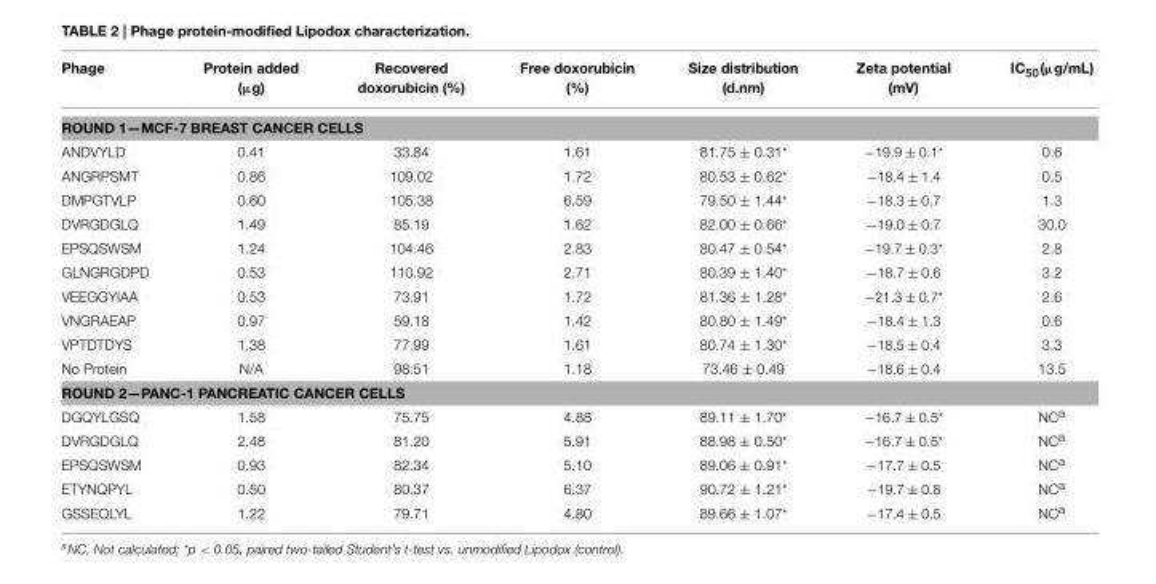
<table><thead><tr><td>Phage</td><td>Protein added (µg)</td><td>Recovered doxorubicin (%)</td><td>Free doxorubicin (%)</td><td>Size distribution (d.nm)</td><td>Zeta potential (mV)</td><td>IC<sub>50</sub>(µg/mL)</td></tr></thead><tbody><tr><td colspan="7">ROUND 1—MCF-7 BREAST CANCER CELLS</td></tr><tr><td>ANDVYLD</td><td>0.41</td><td>33.84</td><td>1.61</td><td>81.75 ± 0.31*</td><td>−19.9 ± 0.1*</td><td>0.6</td></tr><tr><td>ANGRPSMT</td><td>0.86</td><td>109.02</td><td>1.72</td><td>80.53 ± 0.62*</td><td>−18.4 ± 1.4</td><td>0.5</td></tr><tr><td>DMPGTVLP</td><td>0.60</td><td>105.38</td><td>6.59</td><td>79.50 ± 1.44*</td><td>−18.3 ± 0.7</td><td>1.3</td></tr><tr><td>DVRGDGLQ</td><td>1.49</td><td>85.19</td><td>1.62</td><td>82.00 ± 0.66*</td><td>−19.0 ± 0.7</td><td>30.0</td></tr><tr><td>EPSQSWSM</td><td>1.24</td><td>104.46</td><td>2.83</td><td>80.47 ± 0.54*</td><td>−19.7 ± 0.3*</td><td>2.8</td></tr><tr><td>GLNGRGDPD</td><td>0.53</td><td>110.92</td><td>2.71</td><td>80.39 ± 1.40*</td><td>−18.7 ± 0.6</td><td>3.2</td></tr><tr><td>VEEGGYIAA</td><td>0.53</td><td>73.91</td><td>1.72</td><td>81.36 ± 1.28*</td><td>−21.3 ± 0.7*</td><td>2.6</td></tr><tr><td>VNGRAEAP</td><td>0.97</td><td>59.18</td><td>1.42</td><td>80.80 ± 1.49*</td><td>−18.4 ± 1.3</td><td>0.6</td></tr><tr><td>VPTDTDYS</td><td>1.38</td><td>77.99</td><td>1.61</td><td>80.74 ± 1.30*</td><td>−18.5 ± 0.4</td><td>3.3</td></tr><tr><td>No Protein</td><td>N/A</td><td>98.51</td><td>1.18</td><td>73.46 ± 0.49</td><td>−18.6 ± 0.4</td><td>13.5</td></tr><tr><td colspan="7">ROUND 2—PANC-1 PANCREATIC CANCER CELLS</td></tr><tr><td>DGQYLGSQ</td><td>1.58</td><td>75.75</td><td>4.88</td><td>89.11 ± 1.70*</td><td>−16.7 ± 0.5*</td><td>NC<sup>a</sup></td></tr><tr><td>DVRGDGLQ</td><td>2.48</td><td>81.20</td><td>5.91</td><td>88.98 ± 0.50*</td><td>−16.7 ± 0.5*</td><td>NC<sup>a</sup></td></tr><tr><td>EPSQSWSM</td><td>0.93</td><td>82.34</td><td>5.10</td><td>89.06 ± 0.91*</td><td>−17.7 ± 0.5</td><td>NC<sup>a</sup></td></tr><tr><td>ETYNQPYL</td><td>0.50</td><td>80.37</td><td>6.37</td><td>90.72 ± 1.21*</td><td>−19.7 ± 0.8</td><td>NC<sup>a</sup></td></tr><tr><td>GSSEQLYL</td><td>1.22</td><td>79.71</td><td>4.80</td><td>89.66 ± 1.07*</td><td>−17.4 ± 0.5</td><td>NC<sup>a</sup></td></tr></tbody></table>